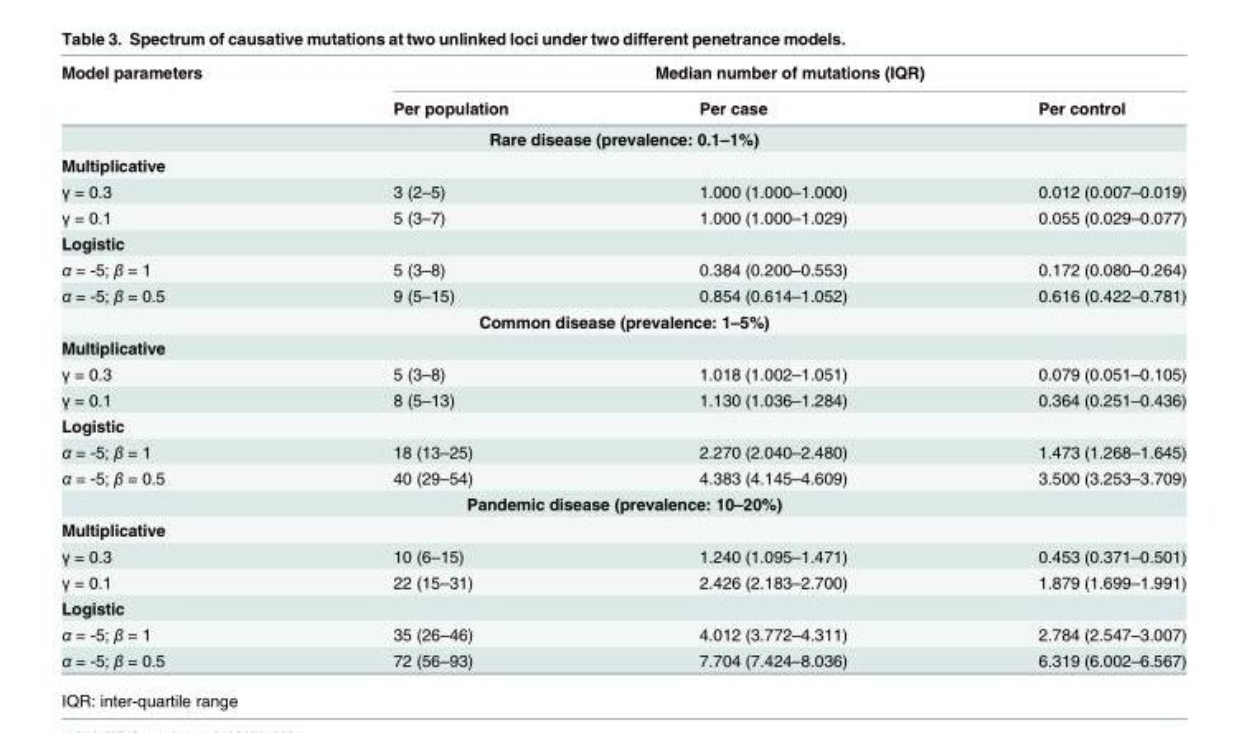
<table><thead><tr><td rowspan="2">Model parameters</td><td colspan="3">Median number of mutations (IQR)</td></tr><tr><td>Per population</td><td>Per case</td><td>Per control</td></tr></thead><tbody><tr><td colspan="4">Rare disease (prevalence: 0.1–1%)</td></tr><tr><td colspan="4">Multiplicative</td></tr><tr><td>γ = 0.3</td><td>3 (2–5)</td><td>1.000 (1.000–1.000)</td><td>0.012 (0.007–0.019)</td></tr><tr><td>γ = 0.1</td><td>5 (3–7)</td><td>1.000 (1.000–1.029)</td><td>0.055 (0.029–0.077)</td></tr><tr><td colspan="4">Logistic</td></tr><tr><td>α = -5; β = 1</td><td>5 (3–8)</td><td>0.384 (0.200–0.553)</td><td>0.172 (0.080–0.264)</td></tr><tr><td>α = -5; β = 0.5</td><td>9 (5–15)</td><td>0.854 (0.614–1.052)</td><td>0.616 (0.422–0.781)</td></tr><tr><td colspan="4">Common disease (prevalence: 1–5%)</td></tr><tr><td colspan="4">Multiplicative</td></tr><tr><td>γ = 0.3</td><td>5 (3–8)</td><td>1.018 (1.002–1.051)</td><td>0.079 (0.051–0.105)</td></tr><tr><td>γ = 0.1</td><td>8 (5–13)</td><td>1.130 (1.036–1.284)</td><td>0.364 (0.251–0.436)</td></tr><tr><td colspan="4">Logistic</td></tr><tr><td>α = -5; β = 1</td><td>18 (13–25)</td><td>2.270 (2.040–2.480)</td><td>1.473 (1.268–1.645)</td></tr><tr><td>α = -5; β = 0.5</td><td>40 (29–54)</td><td>4.383 (4.145–4.609)</td><td>3.500 (3.253–3.709)</td></tr><tr><td colspan="4">Pandemic disease (prevalence: 10–20%)</td></tr><tr><td colspan="4">Multiplicative</td></tr><tr><td>γ = 0.3</td><td>10 (6–15)</td><td>1.240 (1.095–1.471)</td><td>0.453 (0.371–0.501)</td></tr><tr><td>γ = 0.1</td><td>22 (15–31)</td><td>2.426 (2.183–2.700)</td><td>1.879 (1.699–1.991)</td></tr><tr><td colspan="4">Logistic</td></tr><tr><td>α = -5; β = 1</td><td>35 (26–46)</td><td>4.012 (3.772–4.311)</td><td>2.784 (2.547–3.007)</td></tr><tr><td>α = -5; β = 0.5</td><td>72 (56–93)</td><td>7.704 (7.424–8.036)</td><td>6.319 (6.002–6.567)</td></tr></tbody></table>